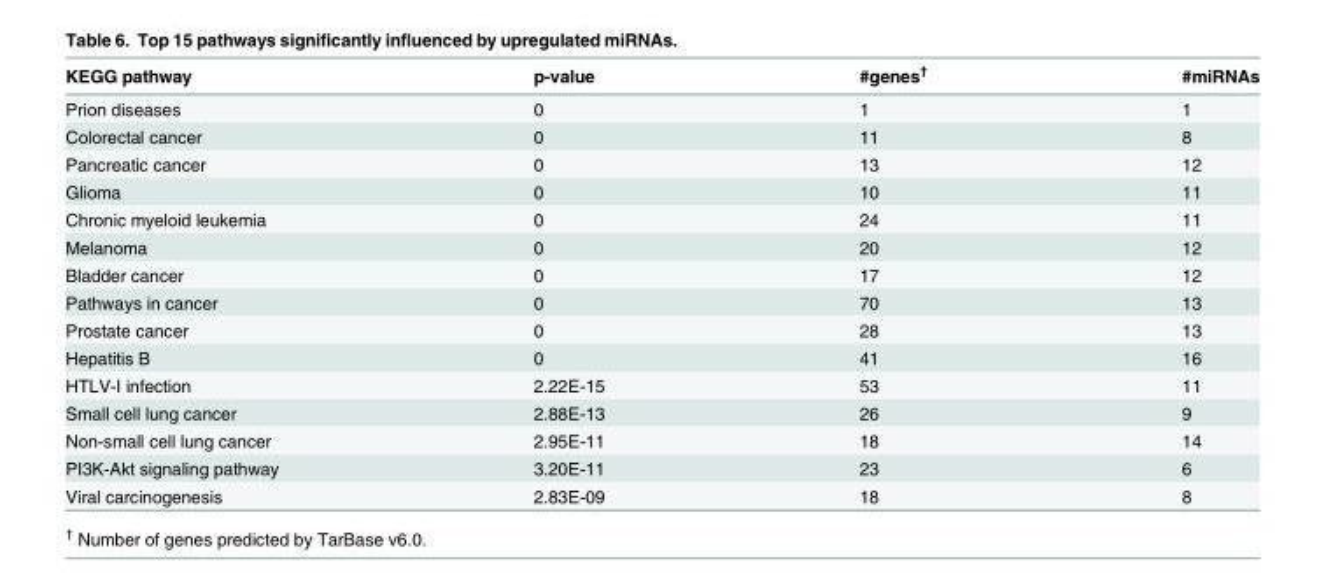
<table><thead><tr><td>KEGG pathway</td><td>p-value</td><td>#genes<sup>†</sup></td><td>#miRNAs</td></tr></thead><tbody><tr><td>Prion diseases</td><td>0</td><td>1</td><td>1</td></tr><tr><td>Colorectal cancer</td><td>0</td><td>11</td><td>8</td></tr><tr><td>Pancreatic cancer</td><td>0</td><td>13</td><td>12</td></tr><tr><td>Glioma</td><td>0</td><td>10</td><td>11</td></tr><tr><td>Chronic myeloid leukemia</td><td>0</td><td>24</td><td>11</td></tr><tr><td>Melanoma</td><td>0</td><td>20</td><td>12</td></tr><tr><td>Bladder cancer</td><td>0</td><td>17</td><td>12</td></tr><tr><td>Pathways in cancer</td><td>0</td><td>70</td><td>13</td></tr><tr><td>Prostate cancer</td><td>0</td><td>28</td><td>13</td></tr><tr><td>Hepatitis B</td><td>0</td><td>41</td><td>16</td></tr><tr><td>HTLV-I infection</td><td>2.22E-15</td><td>53</td><td>11</td></tr><tr><td>Small cell lung cancer</td><td>2.88E-13</td><td>26</td><td>9</td></tr><tr><td>Non-small cell lung cancer</td><td>2.95E-11</td><td>18</td><td>14</td></tr><tr><td>PI3K-Akt signaling pathway</td><td>3.20E-11</td><td>23</td><td>6</td></tr><tr><td>Viral carcinogenesis</td><td>2.83E-09</td><td>18</td><td>8</td></tr></tbody></table>